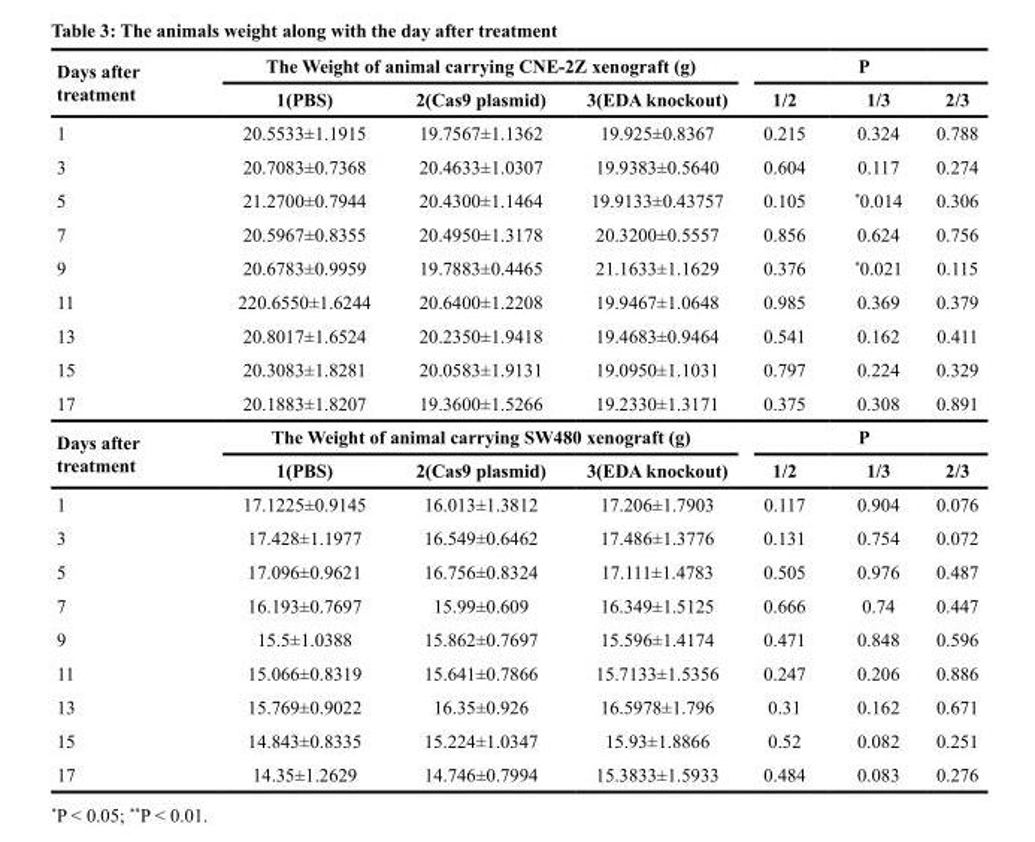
<table><thead><tr><td rowspan="2">Days after treatment</td><td colspan="3">The Weight of animal carrying CNE-2Z xenograft (g)</td><td colspan="3">P</td></tr><tr><td>1(PBS)</td><td>2(Cas9 plasmid)</td><td>3(EDA knockout)</td><td>1/2</td><td>1/3</td><td>2/3</td></tr></thead><tbody><tr><td>1</td><td>20.5533±1.1915</td><td>19.7567±1.1362</td><td>19.925±0.8367</td><td>0.215</td><td>0.324</td><td>0.788</td></tr><tr><td>3</td><td>20.7083±0.7368</td><td>20.4633±1.0307</td><td>19.9383±0.5640</td><td>0.604</td><td>0.117</td><td>0.274</td></tr><tr><td>5</td><td>21.2700±0.7944</td><td>20.4300±1.1464</td><td>19.9133±0.43757</td><td>0.105</td><td>*0.014</td><td>0.306</td></tr><tr><td>7</td><td>20.5967±0.8355</td><td>20.4950±1.3178</td><td>20.3200±0.5557</td><td>0.856</td><td>0.624</td><td>0.756</td></tr><tr><td>9</td><td>20.6783±0.9959</td><td>19.7883±0.4465</td><td>21.1633±1.1629</td><td>0.376</td><td>*0.021</td><td>0.115</td></tr><tr><td>11</td><td>220.6550±1.6244</td><td>20.6400±1.2208</td><td>19.9467±1.0648</td><td>0.985</td><td>0.369</td><td>0.379</td></tr><tr><td>13</td><td>20.8017±1.6524</td><td>20.2350±1.9418</td><td>19.4683±0.9464</td><td>0.541</td><td>0.162</td><td>0.411</td></tr><tr><td>15</td><td>20.3083±1.8281</td><td>20.0583±1.9131</td><td>19.0950±1.1031</td><td>0.797</td><td>0.224</td><td>0.329</td></tr><tr><td>17</td><td>20.1883±1.8207</td><td>19.3600±1.5266</td><td>19.2330±1.3171</td><td>0.375</td><td>0.308</td><td>0.891</td></tr><tr><td rowspan="2">Days after treatment</td><td colspan="3">The Weight of animal carrying SW480 xenograft (g)</td><td colspan="3">P</td></tr><tr><td>1(PBS)</td><td>2(Cas9 plasmid)</td><td>3(EDA knockout)</td><td>1/2</td><td>1/3</td><td>2/3</td></tr><tr><td>1</td><td>17.1225±0.9145</td><td>16.013±1.3812</td><td>17.206±1.7903</td><td>0.117</td><td>0.904</td><td>0.076</td></tr><tr><td>3</td><td>17.428±1.1977</td><td>16.549±0.6462</td><td>17.486±1.3776</td><td>0.131</td><td>0.754</td><td>0.072</td></tr><tr><td>5</td><td>17.096±0.9621</td><td>16.756±0.8324</td><td>17.111±1.4783</td><td>0.505</td><td>0.976</td><td>0.487</td></tr><tr><td>7</td><td>16.193±0.7697</td><td>15.99±0.609</td><td>16.349±1.5125</td><td>0.666</td><td>0.74</td><td>0.447</td></tr><tr><td>9</td><td>15.5±1.0388</td><td>15.862±0.7697</td><td>15.596±1.4174</td><td>0.471</td><td>0.848</td><td>0.596</td></tr><tr><td>11</td><td>15.066±0.8319</td><td>15.641±0.7866</td><td>15.7133±1.5356</td><td>0.247</td><td>0.206</td><td>0.886</td></tr><tr><td>13</td><td>15.769±0.9022</td><td>16.35±0.926</td><td>16.5978±1.796</td><td>0.31</td><td>0.162</td><td>0.671</td></tr><tr><td>15</td><td>14.843±0.8335</td><td>15.224±1.0347</td><td>15.93±1.8866</td><td>0.52</td><td>0.082</td><td>0.251</td></tr><tr><td>17</td><td>14.35±1.2629</td><td>14.746±0.7994</td><td>15.3833±1.5933</td><td>0.484</td><td>0.083</td><td>0.276</td></tr></tbody></table>